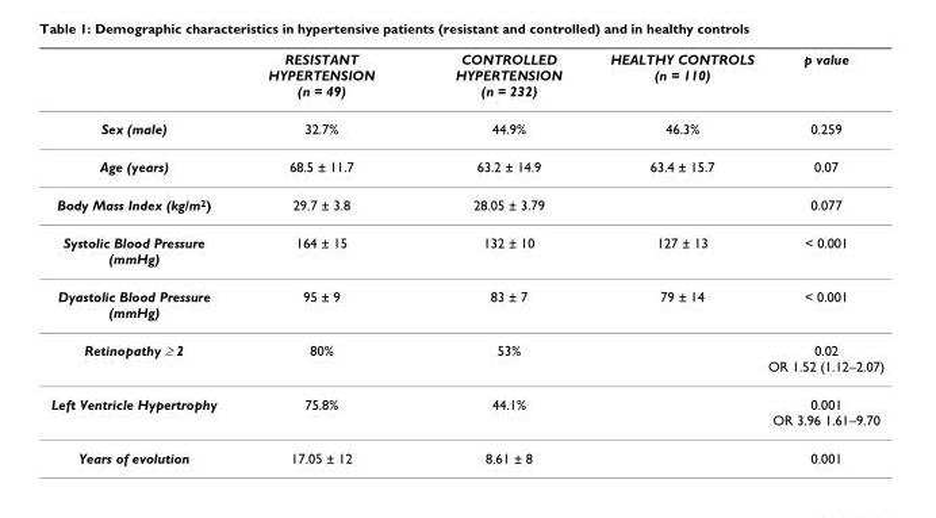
<table><thead><tr><td></td><td>RESISTANT HYPERTENSION (n = 49)</td><td>CONTROLLED HYPERTENSION (n = 232)</td><td>HEALTHY CONTROLS (n = 110)</td><td>p value</td></tr></thead><tbody><tr><td>Sex (male)</td><td>32.7%</td><td>44.9%</td><td>46.3%</td><td>0.259</td></tr><tr><td>Age (years)</td><td>68.5 ± 11.7</td><td>63.2 ± 14.9</td><td>63.4 ± 15.7</td><td>0.07</td></tr><tr><td>Body Mass Index (kg/m<sup>2</sup>)</td><td>29.7 ± 3.8</td><td>28.05 ± 3.79</td><td></td><td>0.077</td></tr><tr><td>Systolic Blood Pressure (mmHg)</td><td>164 ± 15</td><td>132 ± 10</td><td>127 ± 13</td><td>&lt; 0.001</td></tr><tr><td>Dyastolic Blood Pressure (mmHg)</td><td>95 ± 9</td><td>83 ± 7</td><td>79 ± 14</td><td>&lt; 0.001</td></tr><tr><td>Retinopathy ≥ 2</td><td>80%</td><td>53%</td><td></td><td>0.02 OR 1.52 (1.12–2.07)</td></tr><tr><td>Left Ventricle Hypertrophy</td><td>75.8%</td><td>44.1%</td><td></td><td>0.001 OR 3.96 1.61–9.70</td></tr><tr><td>Years of evolution</td><td>17.05 ± 12</td><td>8.61 ± 8</td><td></td><td>0.001</td></tr></tbody></table>